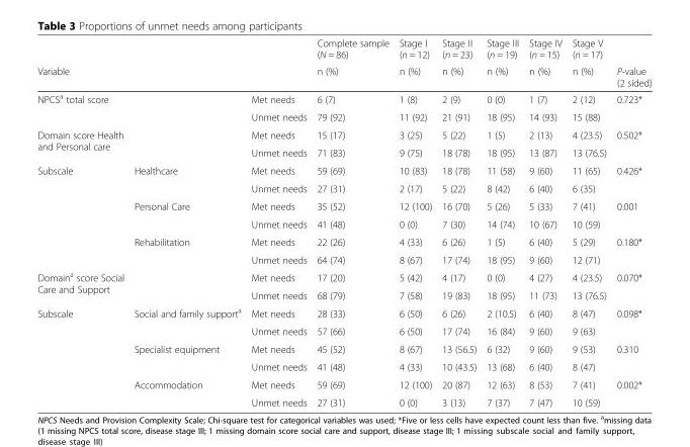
<table><thead><tr><td rowspan="2">Variable</td><td rowspan="2"></td><td rowspan="2"></td><td rowspan="2">Complete sample (N = 86) n (%)</td><td rowspan="2">Stage I (n = 12) n (%)</td><td rowspan="2">Stage II (n = 23) n (%)</td><td rowspan="2">Stage III (n = 19) n (%)</td><td rowspan="2">Stage IV (n = 15) n (%)</td><td rowspan="2">Stage V (n = 17) n (%)</td><td rowspan="2">P-value (2 sided)</td></tr><tr></tr></thead><tbody><tr><td rowspan="2">NPCS<sup>a</sup> total score</td><td rowspan="2"></td><td>Met needs</td><td>6 (7)</td><td>1 (8)</td><td>2 (9)</td><td>0 (0)</td><td>1 (7)</td><td>2 (12)</td><td rowspan="2">0.723*</td></tr><tr><td>Unmet needs</td><td>79 (92)</td><td>11 (92)</td><td>21 (91)</td><td>18 (95)</td><td>14 (93)</td><td>15 (88)</td></tr><tr><td rowspan="2">Domain score Health and Personal care</td><td rowspan="2"></td><td>Met needs</td><td>15 (17)</td><td>3 (25)</td><td>5 (22)</td><td>1 (5)</td><td>2 (13)</td><td>4 (23.5)</td><td rowspan="2">0.502*</td></tr><tr><td>Unmet needs</td><td>71 (83)</td><td>9 (75)</td><td>18 (78)</td><td>18 (95)</td><td>13 (87)</td><td>13 (76.5)</td></tr><tr><td rowspan="6">Subscale</td><td rowspan="2">Healthcare</td><td>Met needs</td><td>59 (69)</td><td>10 (83)</td><td>18 (78)</td><td>11 (58)</td><td>9 (60)</td><td>11 (65)</td><td rowspan="2">0.426*</td></tr><tr><td>Unmet needs</td><td>27 (31)</td><td>2 (17)</td><td>5 (22)</td><td>8 (42)</td><td>6 (40)</td><td>6 (35)</td></tr><tr><td rowspan="2">Personal Care</td><td>Met needs</td><td>35 (52)</td><td>12 (100)</td><td>16 (70)</td><td>5 (26)</td><td>5 (33)</td><td>7 (41)</td><td rowspan="2">0.001</td></tr><tr><td>Unmet needs</td><td>41 (48)</td><td>0 (0)</td><td>7 (30)</td><td>14 (74)</td><td>10 (67)</td><td>10 (59)</td></tr><tr><td rowspan="2">Rehabilitation</td><td>Met needs</td><td>22 (26)</td><td>4 (33)</td><td>6 (26)</td><td>1 (5)</td><td>6 (40)</td><td>5 (29)</td><td rowspan="2">0.180*</td></tr><tr><td>Unmet needs</td><td>64 (74)</td><td>8 (67)</td><td>17 (74)</td><td>18 (95)</td><td>9 (60)</td><td>12 (71)</td></tr><tr><td rowspan="2">Domain<sup>a</sup> score Social Care and Support</td><td rowspan="2"></td><td>Met needs</td><td>17 (20)</td><td>5 (42)</td><td>4 (17)</td><td>0 (0)</td><td>4 (27)</td><td>4 (23.5)</td><td rowspan="2">0.070*</td></tr><tr><td>Unmet needs</td><td>68 (79)</td><td>7 (58)</td><td>19 (83)</td><td>18 (95)</td><td>11 (73)</td><td>13 (76.5)</td></tr><tr><td rowspan="6">Subscale</td><td rowspan="2">Social and family support<sup>a</sup></td><td>Met needs</td><td>28 (33)</td><td>6 (50)</td><td>6 (26)</td><td>2 (10.5)</td><td>6 (40)</td><td>8 (47)</td><td rowspan="2">0.098*</td></tr><tr><td>Unmet needs</td><td>57 (66)</td><td>6 (50)</td><td>17 (74)</td><td>16 (84)</td><td>9 (60)</td><td>9 (63)</td></tr><tr><td rowspan="2">Specialist equipment</td><td>Met needs</td><td>45 (52)</td><td>8 (67)</td><td>13 (56.5)</td><td>6 (32)</td><td>9 (60)</td><td>9 (53)</td><td rowspan="2">0.310</td></tr><tr><td>Unmet needs</td><td>41 (48)</td><td>4 (33)</td><td>10 (43.5)</td><td>13 (68)</td><td>6 (40)</td><td>8 (47)</td></tr><tr><td rowspan="2">Accommodation</td><td>Met needs</td><td>59 (69)</td><td>12 (100)</td><td>20 (87)</td><td>12 (63)</td><td>8 (53)</td><td>7 (41)</td><td rowspan="2">0.002*</td></tr><tr><td>Unmet needs</td><td>27 (31)</td><td>0 (0)</td><td>3 (13)</td><td>7 (37)</td><td>7 (47)</td><td>10 (59)</td></tr></tbody></table>